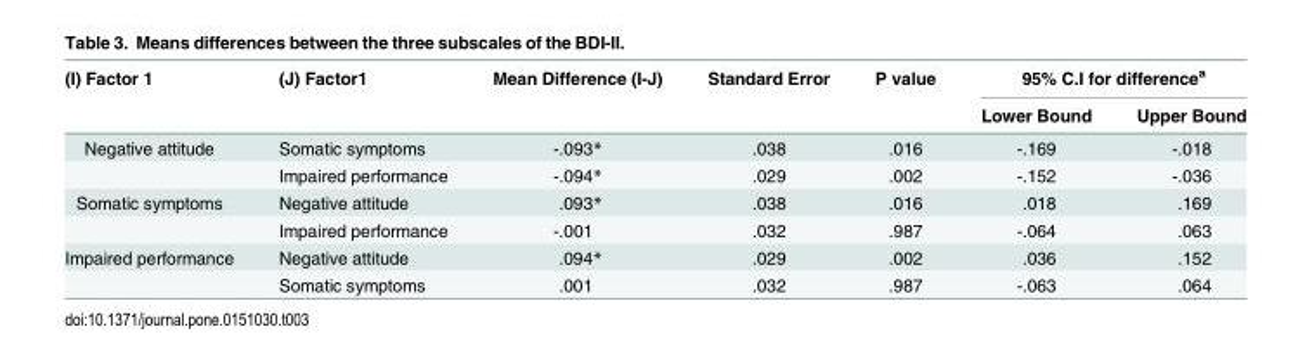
<table><thead><tr><td rowspan="2">(I) Factor 1</td><td rowspan="2">(J) Factor1</td><td rowspan="2">Mean Difference (I-J)</td><td rowspan="2">Standard Error</td><td rowspan="2">P value</td><td colspan="2">95% C.I for difference<sup>a</sup></td></tr><tr><td>Lower Bound</td><td>Upper Bound</td></tr></thead><tbody><tr><td rowspan="2">Negative attitude</td><td>Somatic symptoms</td><td>-.093*</td><td>.038</td><td>.016</td><td>-.169</td><td>-.018</td></tr><tr><td>Impaired performance</td><td>-.094*</td><td>.029</td><td>.002</td><td>-.152</td><td>-.036</td></tr><tr><td rowspan="2">Somatic symptoms</td><td>Negative attitude</td><td>.093*</td><td>.038</td><td>.016</td><td>.018</td><td>.169</td></tr><tr><td>Impaired performance</td><td>-.001</td><td>.032</td><td>.987</td><td>-.064</td><td>.063</td></tr><tr><td rowspan="2">Impaired performance</td><td>Negative attitude</td><td>.094*</td><td>.029</td><td>.002</td><td>.036</td><td>.152</td></tr><tr><td>Somatic symptoms</td><td>.001</td><td>.032</td><td>.987</td><td>-.063</td><td>.064</td></tr></tbody></table>